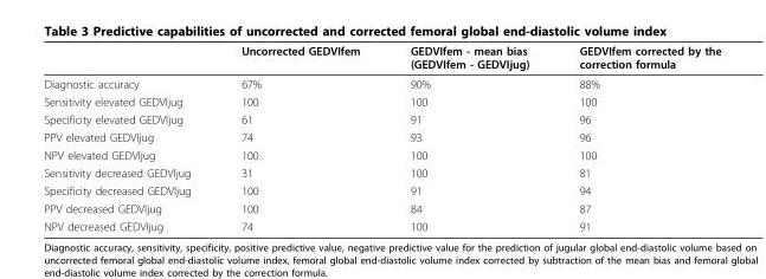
<table><thead><tr><td></td><td>Uncorrected GEDVIfem</td><td>GEDVIfem - mean bias (GEDVIfem - GEDVIjug)</td><td>GEDVIfem corrected by the correction formula</td></tr></thead><tbody><tr><td>Diagnostic accuracy</td><td>67%</td><td>90%</td><td>88%</td></tr><tr><td>Sensitivity elevated GEDVIjug</td><td>100</td><td>100</td><td>100</td></tr><tr><td>Specificity elevated GEDVIjug</td><td>61</td><td>91</td><td>96</td></tr><tr><td>PPV elevated GEDVIjug</td><td>74</td><td>93</td><td>96</td></tr><tr><td>NPV elevated GEDVIjug</td><td>100</td><td>100</td><td>100</td></tr><tr><td>Sensitivity decreased GEDVIjug</td><td>31</td><td>100</td><td>81</td></tr><tr><td>Specificity decreased GEDVIjug</td><td>100</td><td>91</td><td>94</td></tr><tr><td>PPV decreased GEDVIjug</td><td>100</td><td>84</td><td>87</td></tr><tr><td>NPV decreased GEDVIjug</td><td>74</td><td>100</td><td>91</td></tr></tbody></table>